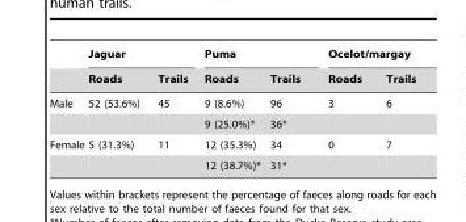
<table><thead><tr><td rowspan="2"></td><td colspan="2">Jaguar</td><td colspan="2">Puma</td><td colspan="2">Ocelot/margay</td></tr><tr><td>Roads</td><td>Trails</td><td>Roads</td><td>Trails</td><td>Roads</td><td>Trails</td></tr></thead><tbody><tr><td rowspan="2">Male</td><td>52 (53.6%)</td><td>45</td><td>9 (8.6%)</td><td>96</td><td>3</td><td>6</td></tr><tr><td></td><td></td><td>9 (25.0%)*</td><td>36*</td><td></td><td></td></tr><tr><td rowspan="2">Female</td><td>5 (31.3%)</td><td>11</td><td>12 (35.3%)</td><td>34</td><td>0</td><td>7</td></tr><tr><td></td><td></td><td>12 (38.7%)*</td><td>31*</td><td></td><td></td></tr></tbody></table>